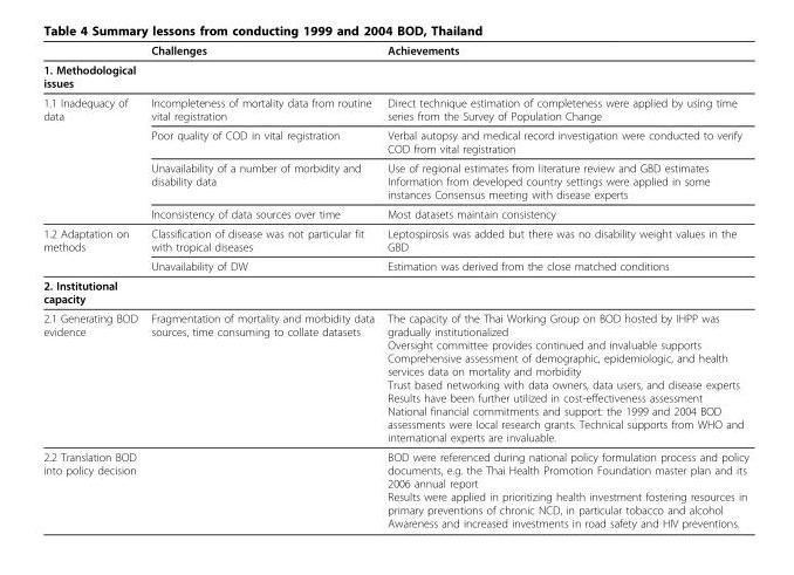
<table><thead><tr><td></td><td>Challenges</td><td>Achievements</td></tr></thead><tbody><tr><td colspan="3">1. Methodological issues</td></tr><tr><td rowspan="4">1.1 Inadequacy of data</td><td>Incompleteness of mortality data from routine vital registration</td><td>Direct technique estimation of completeness were applied by using time series from the Survey of Population Change</td></tr><tr><td>Poor quality of COD in vital registration</td><td>Verbal autopsy and medical record investigation were conducted to verify COD from vital registration</td></tr><tr><td>Unavailability of a number of morbidity and disability data</td><td>Use of regional estimates from literature review and GBD estimates Information from developed country settings were applied in some instances Consensus meeting with disease experts</td></tr><tr><td>Inconsistency of data sources over time</td><td>Most datasets maintain consistency</td></tr><tr><td rowspan="2">1.2 Adaptation on methods</td><td>Classification of disease was not particular fit with tropical diseases</td><td>Leptospirosis was added but there was no disability weight values in the GBD</td></tr><tr><td>Unavailability of DW</td><td>Estimation was derived from the close matched conditions</td></tr><tr><td colspan="3">2. Institutional capacity</td></tr><tr><td>2.1 Generating BOD evidence</td><td>Fragmentation of mortality and morbidity data sources, time consuming to collate datasets</td><td>The capacity of the Thai Working Group on BOD hosted by IHPP was gradually institutionalized Oversight committee provides continued and invaluable supports Comprehensive assessment of demographic, epidemiologic, and health services data on mortality and morbidity Trust based networking with data owners, data users, and disease experts Results have been further utilized in cost-effectiveness assessment National financial commitments and support: the 1999 and 2004 BOD assessments were local research grants. Technical supports from WHO and international experts are invaluable.</td></tr><tr><td>2.2 Translation BOD into policy decision</td><td></td><td>BOD were referenced during national policy formulation process and policy documents, e.g. the Thai Health Promotion Foundation master plan and its 2006 annual report Results were applied in prioritizing health investment fostering resources in primary preventions of chronic NCD, in particular tobacco and alcohol Awareness and increased investments in road safety and HIV preventions.</td></tr></tbody></table>